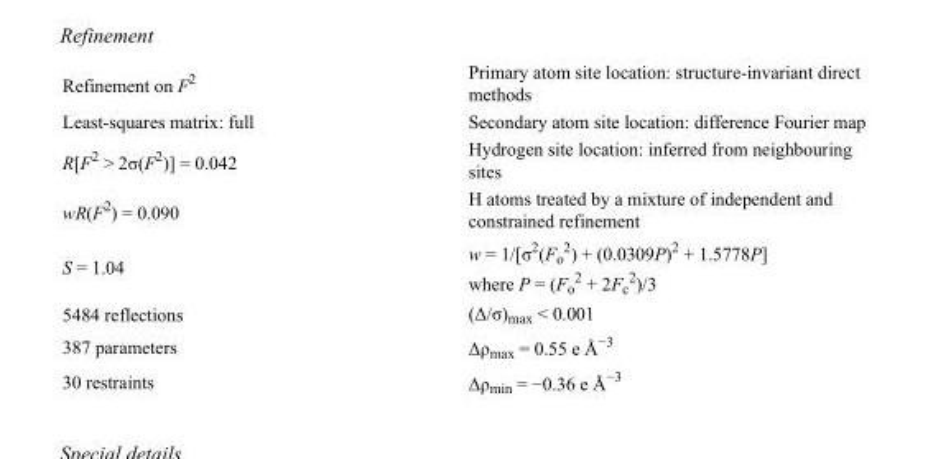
<table><tbody><tr><td>Refinement on F<sup>2</sup></td><td>Primary atom site location: structure-invariant direct methods</td></tr><tr><td>Least-squares matrix: full</td><td>Secondary atom site location: difference Fourier map</td></tr><tr><td>R[F<sup>2</sup> &gt; 2σ(F<sup>2</sup>)] = 0.042</td><td>Hydrogen site location: inferred from neighbouring sites</td></tr><tr><td>wR(F<sup>2</sup>) = 0.090</td><td>H atoms treated by a mixture of independent and constrained refinement</td></tr><tr><td>S = 1.04</td><td>w = 1/[σ<sup>2</sup>(F<sub>o</sub> <sup>2</sup>) + (0.0309P)<sup>2</sup> + 1.5778P] where P = (F<sub>o</sub> <sup>2</sup> + 2F<sub>c</sub> <sup>2</sup>)/3</td></tr><tr><td>5484 reflections</td><td>(Δ/σ)<sub>max</sub> &lt; 0.001</td></tr><tr><td>387 parameters</td><td>Δρ<sub>max</sub> = 0.55 e Å<sup>−3</sup></td></tr><tr><td>30 restraints</td><td>Δρ<sub>min</sub> = −0.36 e Å<sup>−3</sup></td></tr></tbody></table>